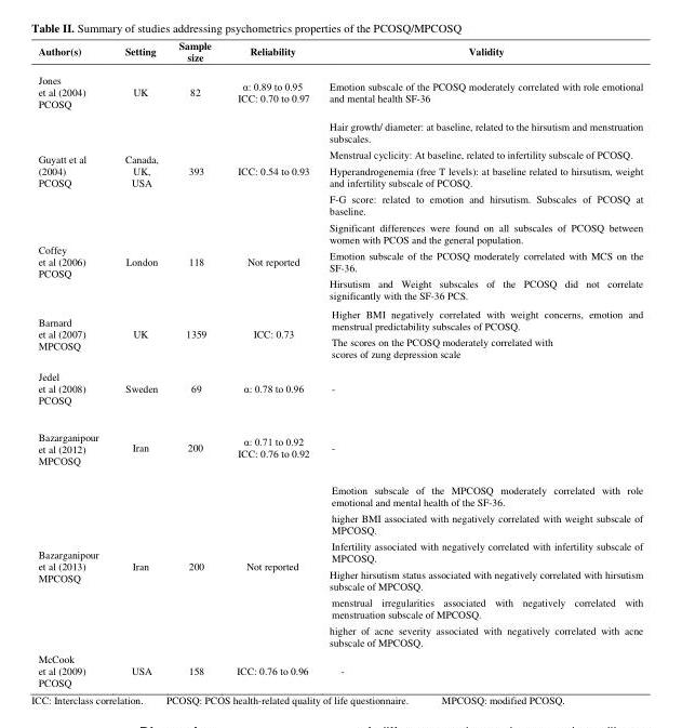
<table><thead><tr><td>Author(s)</td><td>Setting</td><td>Sample size</td><td>Reliability</td><td>Validity</td></tr></thead><tbody><tr><td>Jones et al (2004) PCOSQ</td><td>UK</td><td>82</td><td>α: 0.89 to 0.95 ICC: 0.70 to 0.97</td><td>Emotion subscale of the PCOSQ moderately correlated with role emotional and mental health SF-36</td></tr><tr><td>Guyatt et al (2004) PCOSQ</td><td>Canada, UK, USA</td><td>393</td><td>ICC: 0.54 to 0.93</td><td>Hair growth/ diameter: at baseline, related to the hirsutism and menstruation subscales. Menstrual cyclicity: At baseline, related to infertility subscale of PCOSQ. Hyperandrogenemia (free T levels): at baseline related to hirsutism, weight and infertility subscale of PCOSQ. F-G score: related to emotion and hirsutism. Subscales of PCOSQ at baseline.</td></tr><tr><td>Coffey et al (2006) PCOSQ</td><td>London</td><td>118</td><td>Not reported</td><td>Significant differences were found on all subscales of PCOSQ between women with PCOS and the general population. Emotion subscale of the PCOSQ moderately correlated with MCS on the SF-36. Hirsutism and Weight subscales of the PCOSQ did not correlate significantly with the SF-36 PCS.</td></tr><tr><td>Barnard et al (2007) MPCOSQ</td><td>UK</td><td>1359</td><td>ICC: 0.73</td><td>Higher BMI negatively correlated with weight concerns, emotion and menstrual predictability subscales of PCOSQ. The scores on the PCOSQ moderately correlated with scores of zung depression scale</td></tr><tr><td>Jedel et al (2008) PCOSQ</td><td>Sweden</td><td>69</td><td>α: 0.78 to 0.96</td><td>-</td></tr><tr><td>Bazarganipour et al (2012) MPCOSQ</td><td>Iran</td><td>200</td><td>α: 0.71 to 0.92 ICC: 0.76 to 0.92</td><td>-</td></tr><tr><td>Bazarganipour et al (2013) MPCOSQ</td><td>Iran</td><td>200</td><td>Not reported</td><td>Emotion subscale of the MPCOSQ moderately correlated with role emotional and mental health of the SF-36. higher BMI associated with negatively correlated with weight subscale of MPCOSQ. Infertility associated with negatively correlated with infertility subscale of MPCOSQ. Higher hirsutism status associated with negatively correlated with hirsutism subscale of MPCOSQ. menstrual irregularities associated with negatively correlated with menstruation subscale of MPCOSQ. higher of acne severity associated with negatively correlated with acne subscale of MPCOSQ.</td></tr><tr><td>McCook et al (2009) PCOSQ</td><td>USA</td><td>158</td><td>ICC: 0.76 to 0.96</td><td>-</td></tr></tbody></table>